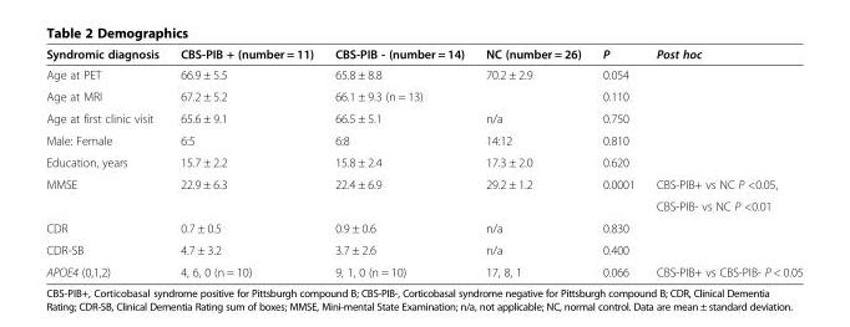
<table><thead><tr><td>Syndromic diagnosis</td><td>CBS-PIB + (number = 11)</td><td>CBS-PIB - (number = 14)</td><td>NC (number = 26)</td><td>P</td><td>Post hoc</td></tr></thead><tbody><tr><td>Age at PET</td><td>66.9 ± 5.5</td><td>65.8 ± 8.8</td><td>70.2 ± 2.9</td><td>0.054</td><td></td></tr><tr><td>Age at MRI</td><td>67.2 ± 5.2</td><td>66.1 ± 9.3 (n = 13)</td><td></td><td>0.110</td><td></td></tr><tr><td>Age at first clinic visit</td><td>65.6 ± 9.1</td><td>66.5 ± 5.1</td><td>n/a</td><td>0.750</td><td></td></tr><tr><td>Male: Female</td><td>6:5</td><td>6:8</td><td>14:12</td><td>0.810</td><td></td></tr><tr><td>Education, years</td><td>15.7 ± 2.2</td><td>15.8 ± 2.4</td><td>17.3 ± 2.0</td><td>0.620</td><td></td></tr><tr><td rowspan="2">MMSE</td><td rowspan="2">22.9 ± 6.3</td><td rowspan="2">22.4 ± 6.9</td><td rowspan="2">29.2 ± 1.2</td><td rowspan="2">0.0001</td><td>CBS-PIB+ vs NC P &lt;0.05,</td></tr><tr><td>CBS-PIB- vs NC P &lt;0.01</td></tr><tr><td>CDR</td><td>0.7 ± 0.5</td><td>0.9 ± 0.6</td><td>n/a</td><td>0.830</td><td></td></tr><tr><td>CDR-SB</td><td>4.7 ± 3.2</td><td>3.7 ± 2.6</td><td>n/a</td><td>0.400</td><td></td></tr><tr><td>APOE4 (0,1,2)</td><td>4, 6, 0 (n = 10)</td><td>9, 1, 0 (n = 10)</td><td>17, 8, 1</td><td>0.066</td><td>CBS-PIB+ vs CBS-PIB- P &lt; 0.05</td></tr></tbody></table>